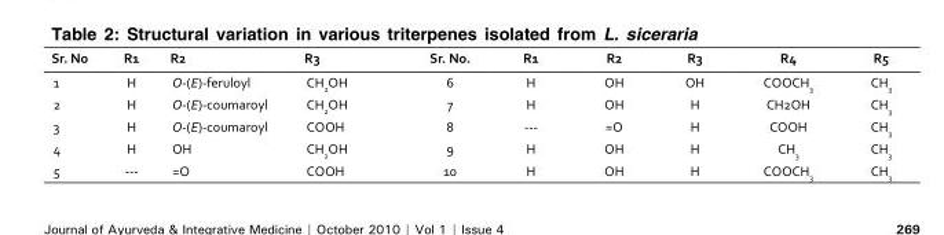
<table><thead><tr><td>Sr. No</td><td>R1</td><td>R2</td><td>R3</td><td>Sr. No.</td><td>R1</td><td>R2</td><td>R3</td><td>R4</td><td>R5</td></tr></thead><tbody><tr><td>1</td><td>H</td><td>O-(E)-feruloyl</td><td>CH<sub>2</sub>OH</td><td>6</td><td>H</td><td>OH</td><td>OH</td><td>COOCH<sub>3</sub></td><td>CH<sub>3</sub></td></tr><tr><td>2</td><td>H</td><td>O-(E)-coumaroyl</td><td>CH<sub>2</sub>OH</td><td>7</td><td>H</td><td>OH</td><td>H</td><td>CH<sub>2</sub>OH</td><td>CH3</td></tr><tr><td>3</td><td>H</td><td>O-(E)-coumaroyl</td><td>COOH</td><td>8</td><td>---</td><td>=O</td><td>H</td><td>COOH</td><td>CH<sub>3</sub></td></tr><tr><td>4</td><td>H</td><td>OH</td><td>CH<sub>2</sub>OH</td><td>9</td><td>H</td><td>OH</td><td>H</td><td>CH<sub>3</sub></td><td>CH<sub>3</sub></td></tr><tr><td>5</td><td>---</td><td>=O</td><td>COOH</td><td>10</td><td>H</td><td>OH</td><td>H</td><td>COOCH<sub>3</sub></td><td>CH<sub>3</sub></td></tr></tbody></table>